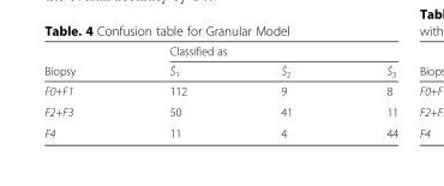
<table><thead><tr><td rowspan="2">Biopsy</td><td colspan="3">Classified as</td></tr><tr><td>Ŝ<sub>1</sub></td><td>Ŝ<sub>2</sub></td><td>Ŝ<sub>3</sub></td></tr></thead><tbody><tr><td>F0+F1</td><td>112</td><td>9</td><td>8</td></tr><tr><td>F2+F3</td><td>50</td><td>41</td><td>11</td></tr><tr><td>F4</td><td>11</td><td>4</td><td>44</td></tr></tbody></table>